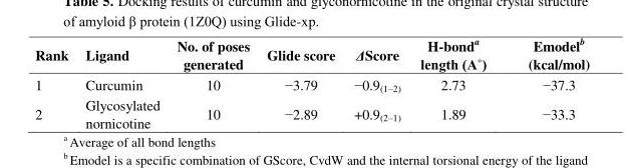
<table><thead><tr><td>Rank</td><td>Ligand</td><td>No. of poses generated</td><td>Glide score</td><td>ΔScore</td><td>H-bond<sup>a</sup> length (A˚)</td><td>Emodel<sup>b</sup> (kcal/mol)</td></tr></thead><tbody><tr><td>1</td><td>Curcumin</td><td>10</td><td>−3.79</td><td>−0.9<sub>(1–2)</sub></td><td>2.73</td><td>−37.3</td></tr><tr><td>2</td><td>Glycosylated nornicotine</td><td>10</td><td>−2.89</td><td>+0.9<sub>(2–1)</sub></td><td>1.89</td><td>−33.3</td></tr></tbody></table>